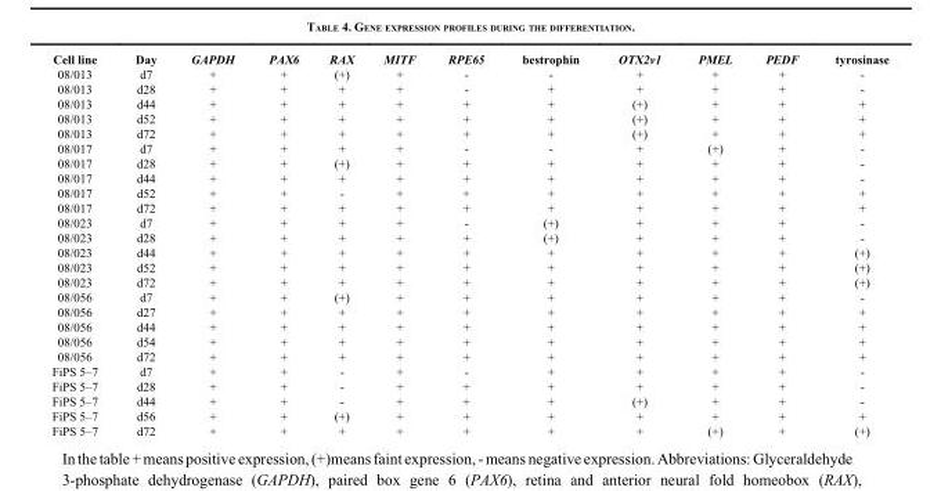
<table><thead><tr><td>Cell line</td><td>Day</td><td>GAPDH</td><td>PAX6</td><td>RAX</td><td>MITF</td><td>RPE65</td><td>bestrophin</td><td>OTX2v1</td><td>PMEL</td><td>PEDF</td><td>tyrosinase</td></tr></thead><tbody><tr><td>08/013</td><td>d7</td><td>+</td><td>+</td><td>(+)</td><td>+</td><td>-</td><td>-</td><td>+</td><td>+</td><td>+</td><td>-</td></tr><tr><td>08/013</td><td>d28</td><td>+</td><td>+</td><td>+</td><td>+</td><td>-</td><td>+</td><td>+</td><td>+</td><td>+</td><td>-</td></tr><tr><td>08/013</td><td>d44</td><td>+</td><td>+</td><td>+</td><td>+</td><td>+</td><td>+</td><td>(+)</td><td>+</td><td>+</td><td>+</td></tr><tr><td>08/013</td><td>d52</td><td>+</td><td>+</td><td>+</td><td>+</td><td>+</td><td>+</td><td>(+)</td><td>+</td><td>+</td><td>+</td></tr><tr><td>08/013</td><td>d72</td><td>+</td><td>+</td><td>+</td><td>+</td><td>+</td><td>+</td><td>(+)</td><td>+</td><td>+</td><td>+</td></tr><tr><td>08/017</td><td>d7</td><td>+</td><td>+</td><td>+</td><td>+</td><td>-</td><td>-</td><td>+</td><td>(+)</td><td>+</td><td>-</td></tr><tr><td>08/017</td><td>d28</td><td>+</td><td>+</td><td>(+)</td><td>+</td><td>+</td><td>+</td><td>+</td><td>+</td><td>+</td><td>-</td></tr><tr><td>08/017</td><td>d44</td><td>+</td><td>+</td><td>+</td><td>+</td><td>+</td><td>+</td><td>+</td><td>+</td><td>+</td><td>-</td></tr><tr><td>08/017</td><td>d52</td><td>+</td><td>+</td><td>-</td><td>+</td><td>+</td><td>+</td><td>+</td><td>+</td><td>+</td><td>+</td></tr><tr><td>08/017</td><td>d72</td><td>+</td><td>+</td><td>+</td><td>+</td><td>+</td><td>+</td><td>+</td><td>+</td><td>+</td><td>+</td></tr><tr><td>08/023</td><td>d7</td><td>+</td><td>+</td><td>+</td><td>+</td><td>-</td><td>(+)</td><td>+</td><td>+</td><td>+</td><td>-</td></tr><tr><td>08/023</td><td>d28</td><td>+</td><td>+</td><td>+</td><td>+</td><td>+</td><td>(+)</td><td>+</td><td>+</td><td>+</td><td>-</td></tr><tr><td>08/023</td><td>d44</td><td>+</td><td>+</td><td>+</td><td>+</td><td>+</td><td>+</td><td>+</td><td>+</td><td>+</td><td>(+)</td></tr><tr><td>08/023</td><td>d52</td><td>+</td><td>+</td><td>+</td><td>+</td><td>+</td><td>+</td><td>+</td><td>+</td><td>+</td><td>(+)</td></tr><tr><td>08/023</td><td>d72</td><td>+</td><td>+</td><td>+</td><td>+</td><td>+</td><td>+</td><td>+</td><td>+</td><td>+</td><td>(+)</td></tr><tr><td>08/056</td><td>d7</td><td>+</td><td>+</td><td>(+)</td><td>+</td><td>+</td><td>+</td><td>+</td><td>+</td><td>+</td><td>-</td></tr><tr><td>08/056</td><td>d27</td><td>+</td><td>+</td><td>+</td><td>+</td><td>+</td><td>+</td><td>+</td><td>+</td><td>+</td><td>+</td></tr><tr><td>08/056</td><td>d44</td><td>+</td><td>+</td><td>+</td><td>+</td><td>+</td><td>+</td><td>+</td><td>+</td><td>+</td><td>+</td></tr><tr><td>08/056</td><td>d54</td><td>+</td><td>+</td><td>+</td><td>+</td><td>+</td><td>+</td><td>+</td><td>+</td><td>+</td><td>+</td></tr><tr><td>08/056</td><td>d72</td><td>+</td><td>+</td><td>+</td><td>+</td><td>+</td><td>+</td><td>+</td><td>+</td><td>+</td><td>+</td></tr><tr><td>FiPS 5–7</td><td>d7</td><td>+</td><td>+</td><td>-</td><td>+</td><td>-</td><td>+</td><td>+</td><td>+</td><td>+</td><td>-</td></tr><tr><td>FiPS 5–7</td><td>d28</td><td>+</td><td>+</td><td>-</td><td>+</td><td>+</td><td>+</td><td>+</td><td>+</td><td>+</td><td>-</td></tr><tr><td>FiPS 5–7</td><td>d44</td><td>+</td><td>+</td><td>-</td><td>+</td><td>+</td><td>+</td><td>(+)</td><td>+</td><td>+</td><td>-</td></tr><tr><td>FiPS 5–7</td><td>d56</td><td>+</td><td>+</td><td>(+)</td><td>+</td><td>+</td><td>+</td><td>+</td><td>+</td><td>+</td><td>+</td></tr><tr><td>FiPS 5–7</td><td>d72</td><td>+</td><td>+</td><td>+</td><td>+</td><td>+</td><td>+</td><td>+</td><td>(+)</td><td>+</td><td>(+)</td></tr></tbody></table>